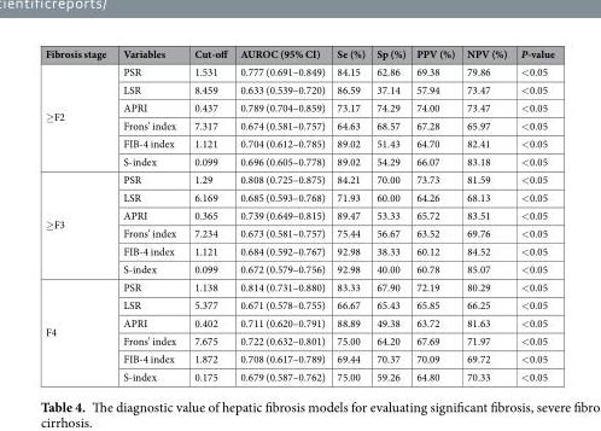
<table><thead><tr><td>Fibrosis stage</td><td>Variables</td><td>Cut-off</td><td>AUROC (95% CI)</td><td>Se (%)</td><td>Sp (%)</td><td>PPV (%)</td><td>NPV (%)</td><td>P-value</td></tr></thead><tbody><tr><td rowspan="6">≥F2</td><td>PSR</td><td>1.531</td><td>0.777 (0.691–0.849)</td><td>84.15</td><td>62.86</td><td>69.38</td><td>79.86</td><td>&lt;0.05</td></tr><tr><td>LSR</td><td>8.459</td><td>0.633 (0.539–0.720)</td><td>86.59</td><td>37.14</td><td>57.94</td><td>73.47</td><td>&lt;0.05</td></tr><tr><td>APRI</td><td>0.437</td><td>0.789 (0.704–0.859)</td><td>73.17</td><td>74.29</td><td>74.00</td><td>73.47</td><td>&lt;0.05</td></tr><tr><td>Frons’ index</td><td>7.317</td><td>0.674 (0.581–0.757)</td><td>64.63</td><td>68.57</td><td>67.28</td><td>65.97</td><td>&lt;0.05</td></tr><tr><td>FIB-4 index</td><td>1.121</td><td>0.704 (0.612–0.785)</td><td>89.02</td><td>51.43</td><td>64.70</td><td>82.41</td><td>&lt;0.05</td></tr><tr><td>S-index</td><td>0.099</td><td>0.696 (0.605–0.778)</td><td>89.02</td><td>54.29</td><td>66.07</td><td>83.18</td><td>&lt;0.05</td></tr><tr><td rowspan="6">≥F3</td><td>PSR</td><td>1.29</td><td>0.808 (0.725–0.875)</td><td>84.21</td><td>70.00</td><td>73.73</td><td>81.59</td><td>&lt;0.05</td></tr><tr><td>LSR</td><td>6.169</td><td>0.685 (0.593–0.768)</td><td>71.93</td><td>60.00</td><td>64.26</td><td>68.13</td><td>&lt;0.05</td></tr><tr><td>APRI</td><td>0.365</td><td>0.739 (0.649–0.815)</td><td>89.47</td><td>53.33</td><td>65.72</td><td>83.51</td><td>&lt;0.05</td></tr><tr><td>Frons’ index</td><td>7.234</td><td>0.673 (0.581–0.757)</td><td>75.44</td><td>56.67</td><td>63.52</td><td>69.76</td><td>&lt;0.05</td></tr><tr><td>FIB-4 index</td><td>1.121</td><td>0.684 (0.592–0.767)</td><td>92.98</td><td>38.33</td><td>60.12</td><td>84.52</td><td>&lt;0.05</td></tr><tr><td>S-index</td><td>0.099</td><td>0.672 (0.579–0.756)</td><td>92.98</td><td>40.00</td><td>60.78</td><td>85.07</td><td>&lt;0.05</td></tr><tr><td rowspan="6">F4</td><td>PSR</td><td>1.138</td><td>0.814 (0.731–0.880)</td><td>83.33</td><td>67.90</td><td>72.19</td><td>80.29</td><td>&lt;0.05</td></tr><tr><td>LSR</td><td>5.377</td><td>0.671 (0.578–0.755)</td><td>66.67</td><td>65.43</td><td>65.85</td><td>66.25</td><td>&lt;0.05</td></tr><tr><td>APRI</td><td>0.402</td><td>0.711 (0.620–0.791)</td><td>88.89</td><td>49.38</td><td>63.72</td><td>81.63</td><td>&lt;0.05</td></tr><tr><td>Frons’ index</td><td>7.675</td><td>0.722 (0.632–0.801)</td><td>75.00</td><td>64.20</td><td>67.69</td><td>71.97</td><td>&lt;0.05</td></tr><tr><td>FIB-4 index</td><td>1.872</td><td>0.708 (0.617–0.789)</td><td>69.44</td><td>70.37</td><td>70.09</td><td>69.72</td><td>&lt;0.05</td></tr><tr><td>S-index</td><td>0.175</td><td>0.679 (0.587–0.762)</td><td>75.00</td><td>59.26</td><td>64.80</td><td>70.33</td><td>&lt;0.05</td></tr></tbody></table>